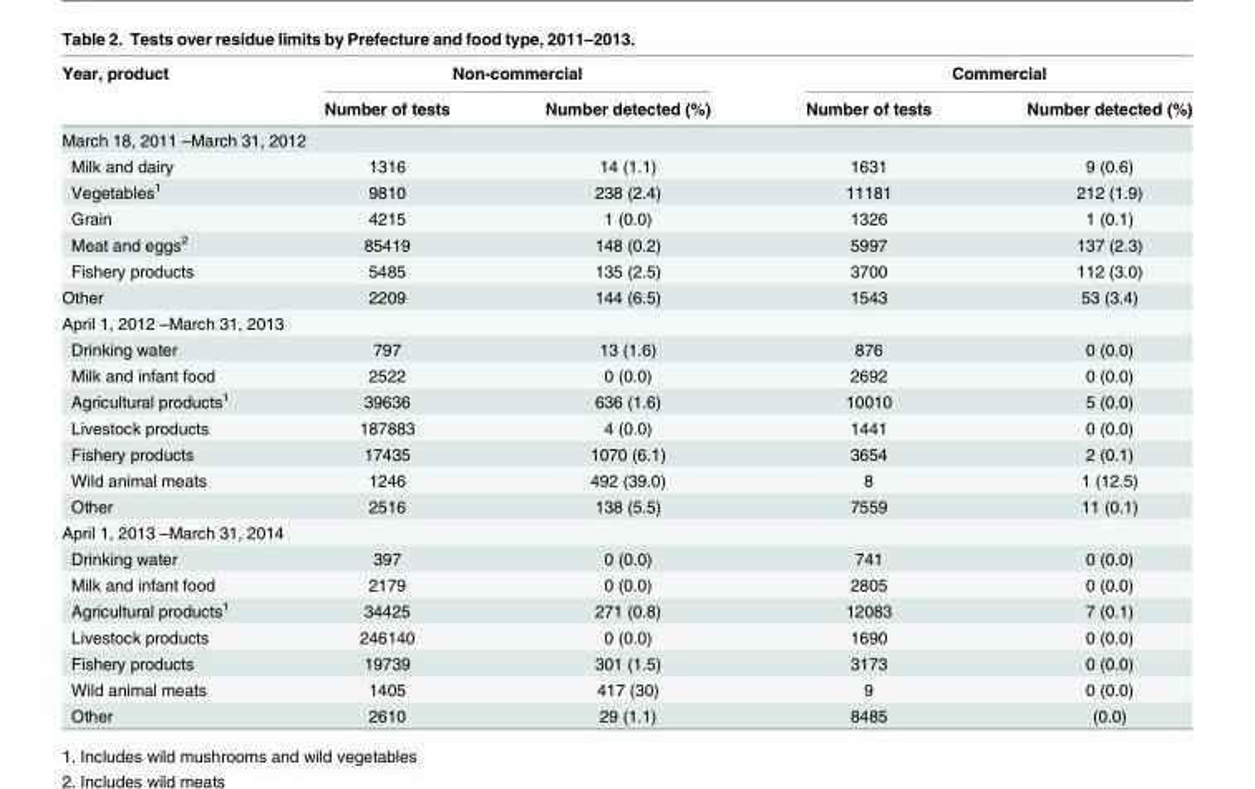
<table><thead><tr><td rowspan="2">Year, product</td><td colspan="2">Non-commercial</td><td colspan="2">Commercial</td></tr><tr><td>Number of tests</td><td>Number detected (%)</td><td>Number of tests</td><td>Number detected (%)</td></tr></thead><tbody><tr><td colspan="5">March 18, 2011 –March 31, 2012</td></tr><tr><td>Milk and dairy</td><td>1316</td><td>14 (1.1)</td><td>1631</td><td>9 (0.6)</td></tr><tr><td>Vegetables<sup>1</sup></td><td>9810</td><td>238 (2.4)</td><td>11181</td><td>212 (1.9)</td></tr><tr><td>Grain</td><td>4215</td><td>1 (0.0)</td><td>1326</td><td>1 (0.1)</td></tr><tr><td>Meat and eggs<sup>2</sup></td><td>85419</td><td>148 (0.2)</td><td>5997</td><td>137 (2.3)</td></tr><tr><td>Fishery products</td><td>5485</td><td>135 (2.5)</td><td>3700</td><td>112 (3.0)</td></tr><tr><td>Other</td><td>2209</td><td>144 (6.5)</td><td>1543</td><td>53 (3.4)</td></tr><tr><td colspan="5">April 1, 2012 –March 31, 2013</td></tr><tr><td>Drinking water</td><td>797</td><td>13 (1.6)</td><td>876</td><td>0 (0.0)</td></tr><tr><td>Milk and infant food</td><td>2522</td><td>0 (0.0)</td><td>2692</td><td>0 (0.0)</td></tr><tr><td>Agricultural products<sup>1</sup></td><td>39636</td><td>636 (1.6)</td><td>10010</td><td>5 (0.0)</td></tr><tr><td>Livestock products</td><td>187883</td><td>4 (0.0)</td><td>1441</td><td>0 (0.0)</td></tr><tr><td>Fishery products</td><td>17435</td><td>1070 (6.1)</td><td>3654</td><td>2 (0.1)</td></tr><tr><td>Wild animal meats</td><td>1246</td><td>492 (39.0)</td><td>8</td><td>1 (12.5)</td></tr><tr><td>Other</td><td>2516</td><td>138 (5.5)</td><td>7559</td><td>11 (0.1)</td></tr><tr><td colspan="5">April 1, 2013 –March 31, 2014</td></tr><tr><td>Drinking water</td><td>397</td><td>0 (0.0)</td><td>741</td><td>0 (0.0)</td></tr><tr><td>Milk and infant food</td><td>2179</td><td>0 (0.0)</td><td>2805</td><td>0 (0.0)</td></tr><tr><td>Agricultural products<sup>1</sup></td><td>34425</td><td>271 (0.8)</td><td>12083</td><td>7 (0.1)</td></tr><tr><td>Livestock products</td><td>246140</td><td>0 (0.0)</td><td>1690</td><td>0 (0.0)</td></tr><tr><td>Fishery products</td><td>19739</td><td>301 (1.5)</td><td>3173</td><td>0 (0.0)</td></tr><tr><td>Wild animal meats</td><td>1405</td><td>417 (30)</td><td>9</td><td>0 (0.0)</td></tr><tr><td>Other</td><td>2610</td><td>29 (1.1)</td><td>8485</td><td>(0.0)</td></tr></tbody></table>